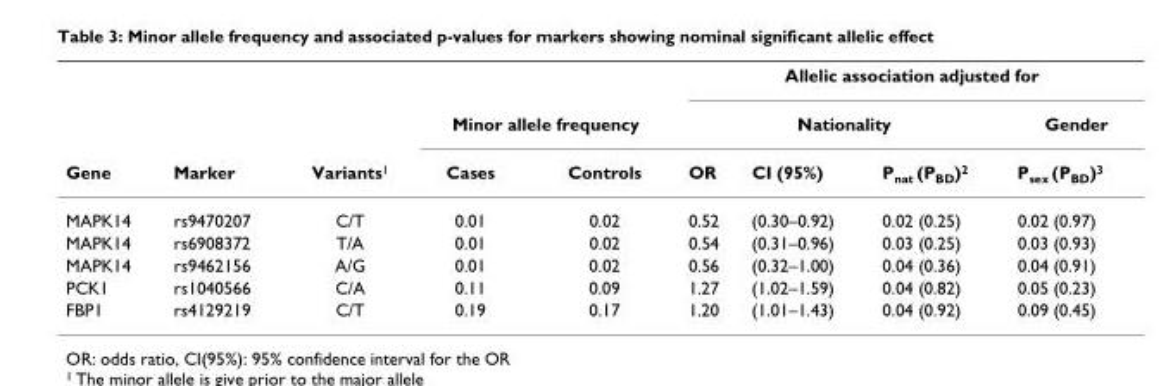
<table><thead><tr><td rowspan="3">Gene</td><td rowspan="3">Marker</td><td rowspan="3">Variants<sup>1</sup></td><td></td><td></td><td colspan="4">Allelic association adjusted for</td></tr><tr><td colspan="2">Minor allele frequency</td><td colspan="3">Nationality</td><td rowspan="2">Gender P<sub>sex</sub> (P<sub>BD</sub>)<sup>3</sup></td></tr><tr><td>Cases</td><td>Controls</td><td>OR</td><td>CI (95%)</td><td>P<sub>nat</sub> (P<sub>BD</sub>)<sup>2</sup></td></tr></thead><tbody><tr><td>MAPK14</td><td>rs9470207</td><td>C/T</td><td>0.01</td><td>0.02</td><td>0.52</td><td>(0.30–0.92)</td><td>0.02 (0.25)</td><td>0.02 (0.97)</td></tr><tr><td>MAPK14</td><td>rs6908372</td><td>T/A</td><td>0.01</td><td>0.02</td><td>0.54</td><td>(0.31–0.96)</td><td>0.03 (0.25)</td><td>0.03 (0.93)</td></tr><tr><td>MAPK14</td><td>rs9462156</td><td>A/G</td><td>0.01</td><td>0.02</td><td>0.56</td><td>(0.32–1.00)</td><td>0.04 (0.36)</td><td>0.04 (0.91)</td></tr><tr><td>PCK1</td><td>rs1040566</td><td>C/A</td><td>0.11</td><td>0.09</td><td>1.27</td><td>(1.02–1.59)</td><td>0.04 (0.82)</td><td>0.05 (0.23)</td></tr><tr><td>FBP1</td><td>rs4129219</td><td>C/T</td><td>0.19</td><td>0.17</td><td>1.20</td><td>(1.01–1.43)</td><td>0.04 (0.92)</td><td>0.09 (0.45)</td></tr></tbody></table>